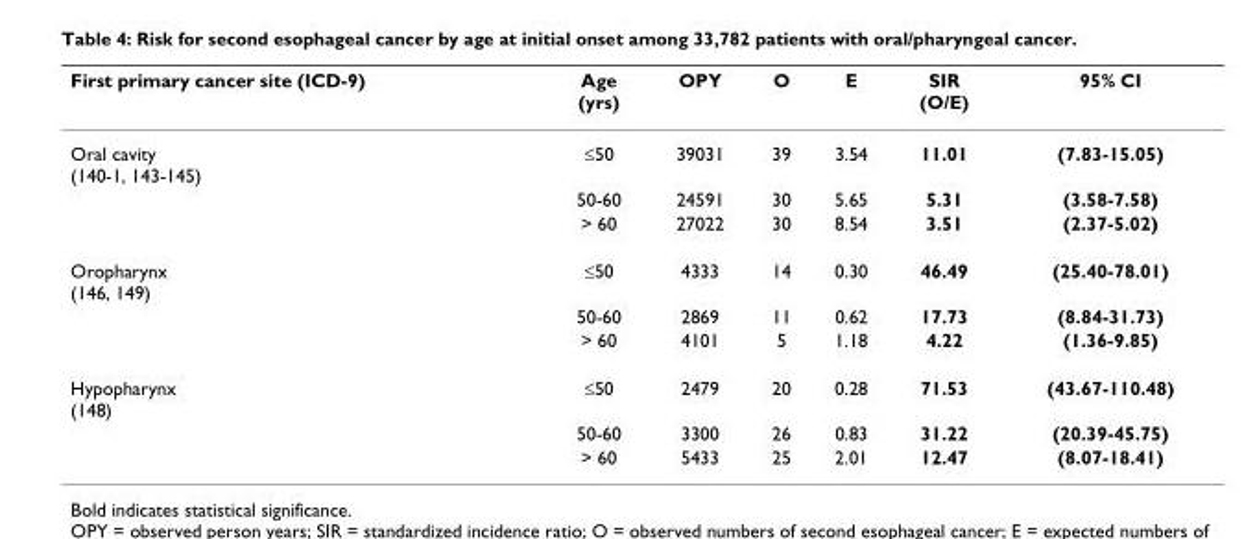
<table><thead><tr><td>First primary cancer site (ICD-9)</td><td>Age (yrs)</td><td>OPY</td><td>O</td><td>E</td><td>SIR (O/E)</td><td>95% CI</td></tr></thead><tbody><tr><td rowspan="3">Oral cavity (140-1, 143-145)</td><td>≤50</td><td>39031</td><td>39</td><td>3.54</td><td>11.01</td><td>(7.83-15.05)</td></tr><tr><td>50-60</td><td>24591</td><td>30</td><td>5.65</td><td>5.31</td><td>(3.58-7.58)</td></tr><tr><td>&gt; 60</td><td>27022</td><td>30</td><td>8.54</td><td>3.51</td><td>(2.37-5.02)</td></tr><tr><td rowspan="3">Oropharynx (146, 149)</td><td>≤50</td><td>4333</td><td>14</td><td>0.30</td><td>46.49</td><td>(25.40-78.01)</td></tr><tr><td>50-60</td><td>2869</td><td>11</td><td>0.62</td><td>17.73</td><td>(8.84-31.73)</td></tr><tr><td>&gt; 60</td><td>4101</td><td>5</td><td>1.18</td><td>4.22</td><td>(1.36-9.85)</td></tr><tr><td rowspan="3">Hypopharynx (148)</td><td>≤50</td><td>2479</td><td>20</td><td>0.28</td><td>71.53</td><td>(43.67-110.48)</td></tr><tr><td>50-60</td><td>3300</td><td>26</td><td>0.83</td><td>31.22</td><td>(20.39-45.75)</td></tr><tr><td>&gt; 60</td><td>5433</td><td>25</td><td>2.01</td><td>12.47</td><td>(8.07-18.41)</td></tr></tbody></table>